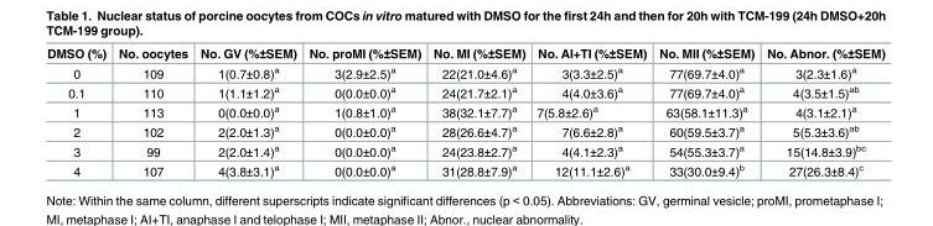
<table><thead><tr><td>DMSO (%)</td><td>No. oocytes</td><td>No. GV (%±SEM)</td><td>No. proMI (%±SEM)</td><td>No. MI (%±SEM)</td><td>No. AI+TI (%±SEM)</td><td>No. MII (%±SEM)</td><td>No. Abnor. (%±SEM)</td></tr></thead><tbody><tr><td>0</td><td>109</td><td>1(0.7±0.8)<sup>a</sup></td><td>3(2.9±2.5)<sup>a</sup></td><td>22(21.0±4.6)<sup>a</sup></td><td>3(3.3±2.5)<sup>a</sup></td><td>77(69.7±4.0)<sup>a</sup></td><td>3(2.3±1.6)<sup>a</sup></td></tr><tr><td>0.1</td><td>110</td><td>1(1.1±1.2)<sup>a</sup></td><td>0(0.0±0.0)<sup>a</sup></td><td>24(21.7±2.1)<sup>a</sup></td><td>4(4.0±3.6)<sup>a</sup></td><td>77(69.7±4.0)<sup>a</sup></td><td>4(3.5±1.5)<sup>ab</sup></td></tr><tr><td>1</td><td>113</td><td>0(0.0±0.0)<sup>a</sup></td><td>1(0.8±1.0)<sup>a</sup></td><td>38(32.1±7.7)<sup>a</sup></td><td>7(5.8±2.6)<sup>a</sup></td><td>63(58.1±11.3)<sup>a</sup></td><td>4(3.1±2.1)<sup>a</sup></td></tr><tr><td>2</td><td>102</td><td>2(2.0±1.3)<sup>a</sup></td><td>0(0.0±0.0)<sup>a</sup></td><td>28(26.6±4.7)<sup>a</sup></td><td>7(6.6±2.8)<sup>a</sup></td><td>60(59.5±3.7)<sup>a</sup></td><td>5(5.3±3.6)<sup>ab</sup></td></tr><tr><td>3</td><td>99</td><td>2(2.0±1.4)<sup>a</sup></td><td>0(0.0±0.0)<sup>a</sup></td><td>24(23.8±2.7)<sup>a</sup></td><td>4(4.1±2.3)<sup>a</sup></td><td>54(55.3±3.7)<sup>a</sup></td><td>15(14.8±3.9)<sup>bc</sup></td></tr><tr><td>4</td><td>107</td><td>4(3.8±3.1)<sup>a</sup></td><td>0(0.0±0.0)<sup>a</sup></td><td>31(28.8±7.9)<sup>a</sup></td><td>12(11.1±2.6)<sup>a</sup></td><td>33(30.0±9.4)<sup>b</sup></td><td>27(26.3±8.4)<sup>c</sup></td></tr></tbody></table>